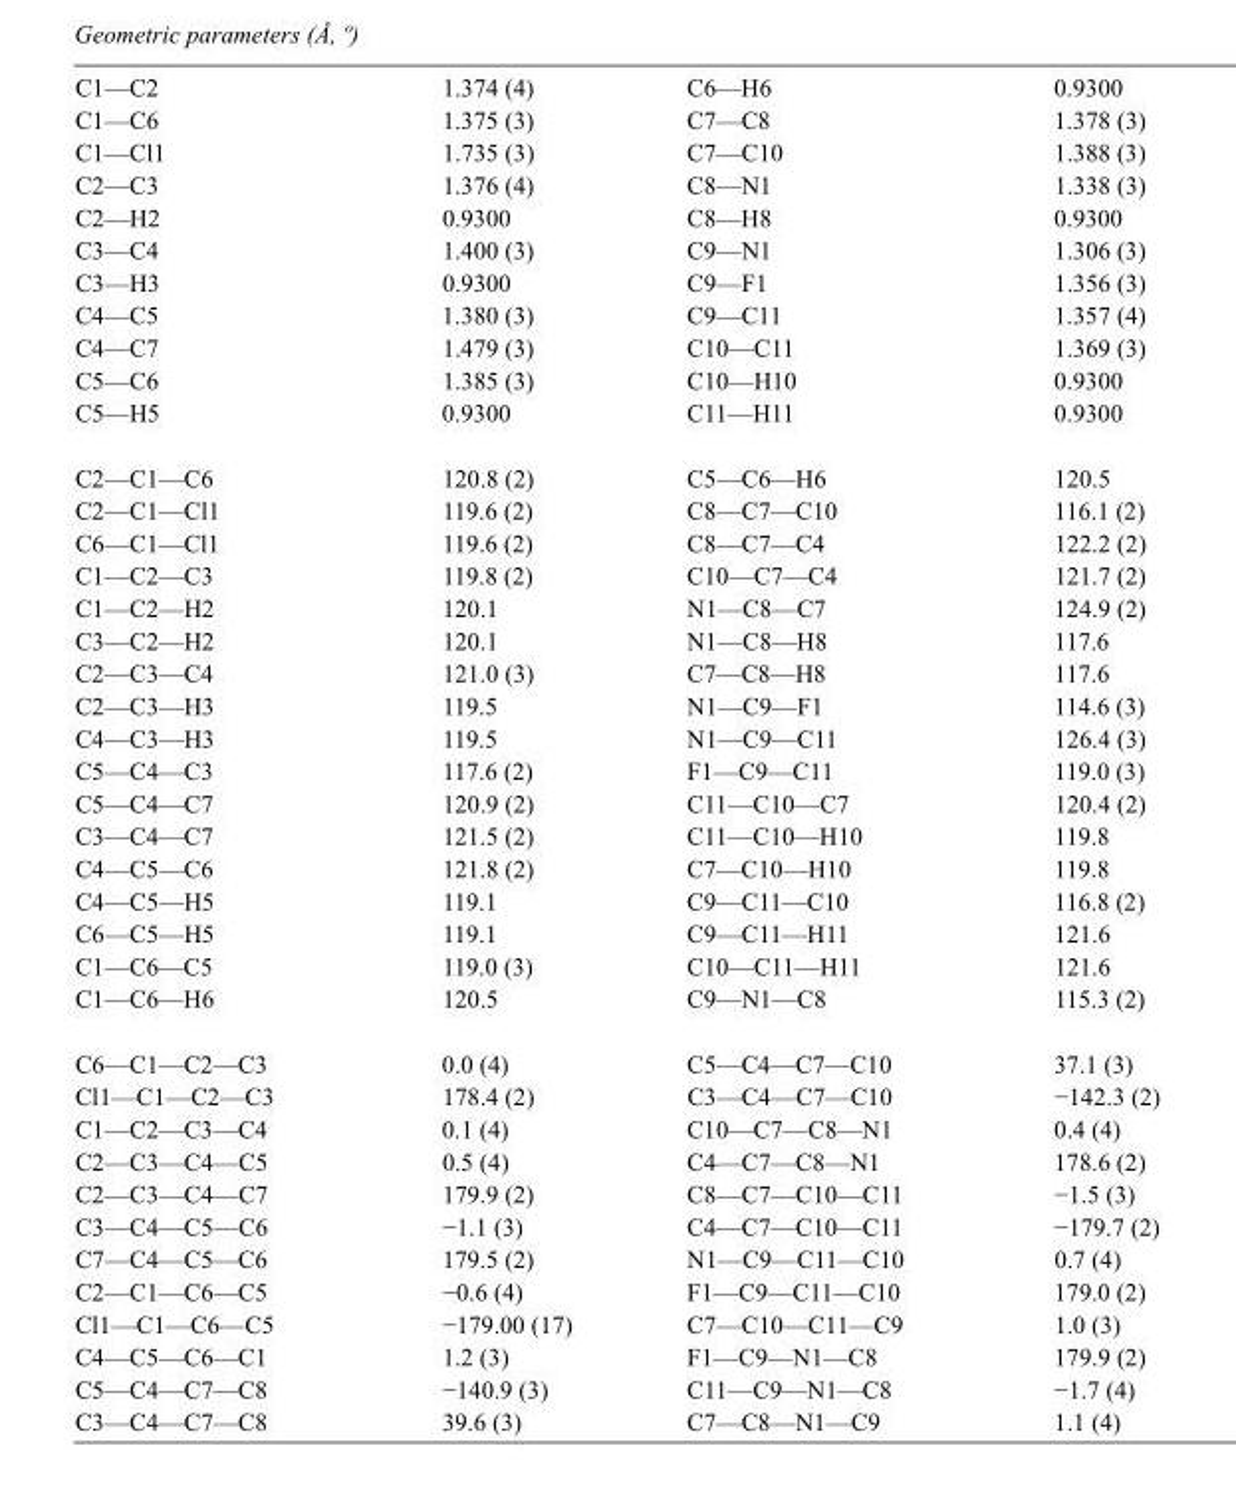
<table><tbody><tr><td>C1—C2</td><td>1.374 (4)</td><td>C6—H6</td><td>0.9300</td></tr><tr><td>C1—C6</td><td>1.375 (3)</td><td>C7—C8</td><td>1.378 (3)</td></tr><tr><td>C1—Cl1</td><td>1.735 (3)</td><td>C7—C10</td><td>1.388 (3)</td></tr><tr><td>C2—C3</td><td>1.376 (4)</td><td>C8—N1</td><td>1.338 (3)</td></tr><tr><td>C2—H2</td><td>0.9300</td><td>C8—H8</td><td>0.9300</td></tr><tr><td>C3—C4</td><td>1.400 (3)</td><td>C9—N1</td><td>1.306 (3)</td></tr><tr><td>C3—H3</td><td>0.9300</td><td>C9—F1</td><td>1.356 (3)</td></tr><tr><td>C4—C5</td><td>1.380 (3)</td><td>C9—C11</td><td>1.357 (4)</td></tr><tr><td>C4—C7</td><td>1.479 (3)</td><td>C10—C11</td><td>1.369 (3)</td></tr><tr><td>C5—C6</td><td>1.385 (3)</td><td>C10—H10</td><td>0.9300</td></tr><tr><td>C5—H5</td><td>0.9300</td><td>C11—H11</td><td>0.9300</td></tr><tr><td>C2—C1—C6</td><td>120.8 (2)</td><td>C5—C6—H6</td><td>120.5</td></tr><tr><td>C2—C1—Cl1</td><td>119.6 (2)</td><td>C8—C7—C10</td><td>116.1 (2)</td></tr><tr><td>C6—C1—Cl1</td><td>119.6 (2)</td><td>C8—C7—C4</td><td>122.2 (2)</td></tr><tr><td>C1—C2—C3</td><td>119.8 (2)</td><td>C10—C7—C4</td><td>121.7 (2)</td></tr><tr><td>C1—C2—H2</td><td>120.1</td><td>N1—C8—C7</td><td>124.9 (2)</td></tr><tr><td>C3—C2—H2</td><td>120.1</td><td>N1—C8—H8</td><td>117.6</td></tr><tr><td>C2—C3—C4</td><td>121.0 (3)</td><td>C7—C8—H8</td><td>117.6</td></tr><tr><td>C2—C3—H3</td><td>119.5</td><td>N1—C9—F1</td><td>114.6 (3)</td></tr><tr><td>C4—C3—H3</td><td>119.5</td><td>N1—C9—C11</td><td>126.4 (3)</td></tr><tr><td>C5—C4—C3</td><td>117.6 (2)</td><td>F1—C9—C11</td><td>119.0 (3)</td></tr><tr><td>C5—C4—C7</td><td>120.9 (2)</td><td>C11—C10—C7</td><td>120.4 (2)</td></tr><tr><td>C3—C4—C7</td><td>121.5 (2)</td><td>C11—C10—H10</td><td>119.8</td></tr><tr><td>C4—C5—C6</td><td>121.8 (2)</td><td>C7—C10—H10</td><td>119.8</td></tr><tr><td>C4—C5—H5</td><td>119.1</td><td>C9—C11—C10</td><td>116.8 (2)</td></tr><tr><td>C6—C5—H5</td><td>119.1</td><td>C9—C11—H11</td><td>121.6</td></tr><tr><td>C1—C6—C5</td><td>119.0 (3)</td><td>C10—C11—H11</td><td>121.6</td></tr><tr><td>C1—C6—H6</td><td>120.5</td><td>C9—N1—C8</td><td>115.3 (2)</td></tr><tr><td>C6—C1—C2—C3</td><td>0.0 (4)</td><td>C5—C4—C7—C10</td><td>37.1 (3)</td></tr><tr><td>Cl1—C1—C2—C3</td><td>178.4 (2)</td><td>C3—C4—C7—C10</td><td>−142.3 (2)</td></tr><tr><td>C1—C2—C3—C4</td><td>0.1 (4)</td><td>C10—C7—C8—N1</td><td>0.4 (4)</td></tr><tr><td>C2—C3—C4—C5</td><td>0.5 (4)</td><td>C4—C7—C8—N1</td><td>178.6 (2)</td></tr><tr><td>C2—C3—C4—C7</td><td>179.9 (2)</td><td>C8—C7—C10—C11</td><td>−1.5 (3)</td></tr><tr><td>C3—C4—C5—C6</td><td>−1.1 (3)</td><td>C4—C7—C10—C11</td><td>−179.7 (2)</td></tr><tr><td>C7—C4—C5—C6</td><td>179.5 (2)</td><td>N1—C9—C11—C10</td><td>0.7 (4)</td></tr><tr><td>C2—C1—C6—C5</td><td>−0.6 (4)</td><td>F1—C9—C11—C10</td><td>179.0 (2)</td></tr><tr><td>Cl1—C1—C6—C5</td><td>−179.00 (17)</td><td>C7—C10—C11—C9</td><td>1.0 (3)</td></tr><tr><td>C4—C5—C6—C1</td><td>1.2 (3)</td><td>F1—C9—N1—C8</td><td>179.9 (2)</td></tr><tr><td>C5—C4—C7—C8</td><td>−140.9 (3)</td><td>C11—C9—N1—C8</td><td>−1.7 (4)</td></tr><tr><td>C3—C4—C7—C8</td><td>39.6 (3)</td><td>C7—C8—N1—C9</td><td>1.1 (4)</td></tr></tbody></table>